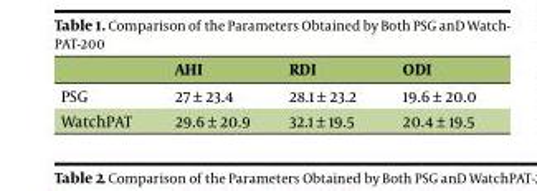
<table><thead><tr><td></td><td>AHI</td><td>RDI</td><td>ODI</td></tr></thead><tbody><tr><td>PSG</td><td>27 ± 23.4</td><td>28.1 ± 23.2</td><td>19.6 ± 20.0</td></tr><tr><td>WatchPAT</td><td>29.6 ± 20.9</td><td>32.1 ± 19.5</td><td>20.4 ± 19.5</td></tr></tbody></table>